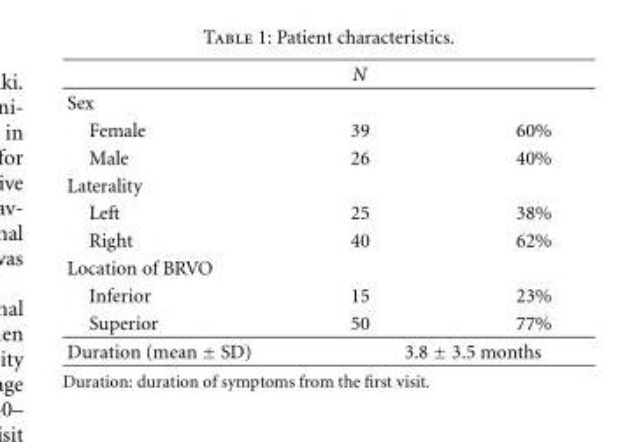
<table><thead><tr><td></td><td>N</td><td></td></tr></thead><tbody><tr><td colspan="3">Sex</td></tr><tr><td>Female</td><td>39</td><td>60%</td></tr><tr><td>Male</td><td>26</td><td>40%</td></tr><tr><td colspan="3">Laterality</td></tr><tr><td>Left</td><td>25</td><td>38%</td></tr><tr><td>Right</td><td>40</td><td>62%</td></tr><tr><td colspan="3">Location of BRVO</td></tr><tr><td>Inferior</td><td>15</td><td>23%</td></tr><tr><td>Superior</td><td>50</td><td>77%</td></tr><tr><td>Duration (mean ± SD)</td><td colspan="2">3.8 ± 3.5 months</td></tr></tbody></table>